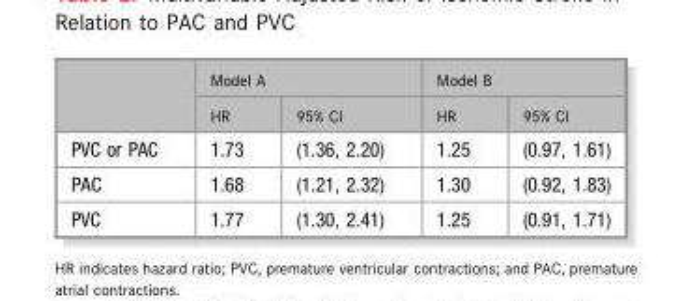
<table><thead><tr><td rowspan="2"></td><td colspan="2">Model A</td><td colspan="2">Model B</td></tr><tr><td>HR</td><td>95% CI</td><td>HR</td><td>95% CI</td></tr></thead><tbody><tr><td>PVC or PAC</td><td>1.73</td><td>(1.36, 2.20)</td><td>1.25</td><td>(0.97, 1.61)</td></tr><tr><td>PAC</td><td>1.68</td><td>(1.21, 2.32)</td><td>1.30</td><td>(0.92, 1.83)</td></tr><tr><td>PVC</td><td>1.77</td><td>(1.30, 2.41)</td><td>1.25</td><td>(0.91, 1.71)</td></tr></tbody></table>